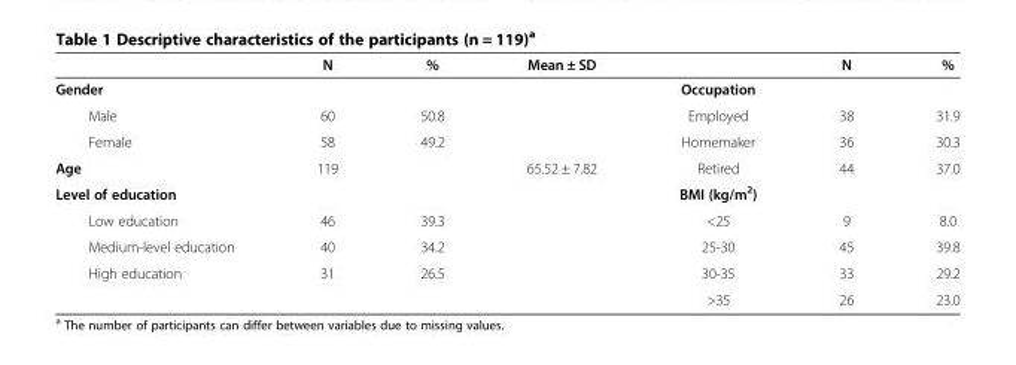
<table><thead><tr><td></td><td>N</td><td>%</td><td>Mean ± SD</td><td></td><td>N</td><td>%</td></tr></thead><tbody><tr><td>Gender</td><td></td><td></td><td></td><td>Occupation</td><td></td><td></td></tr><tr><td>Male</td><td>60</td><td>50.8</td><td></td><td>Employed</td><td>38</td><td>31.9</td></tr><tr><td>Female</td><td>58</td><td>49.2</td><td></td><td>Homemaker</td><td>36</td><td>30.3</td></tr><tr><td>Age</td><td>119</td><td></td><td>65.52 ± 7.82</td><td>Retired</td><td>44</td><td>37.0</td></tr><tr><td>Level of education</td><td></td><td></td><td></td><td>BMI (kg/m<sup>2</sup>)</td><td></td><td></td></tr><tr><td>Low education</td><td>46</td><td>39.3</td><td></td><td>&lt;25</td><td>9</td><td>8.0</td></tr><tr><td>Medium-level education</td><td>40</td><td>34.2</td><td></td><td>25-30</td><td>45</td><td>39.8</td></tr><tr><td rowspan="2">High education</td><td>31</td><td>26.5</td><td></td><td>30-35</td><td>33</td><td>29.2</td></tr><tr><td></td><td></td><td></td><td>&gt;35</td><td>26</td><td>23.0</td></tr></tbody></table>